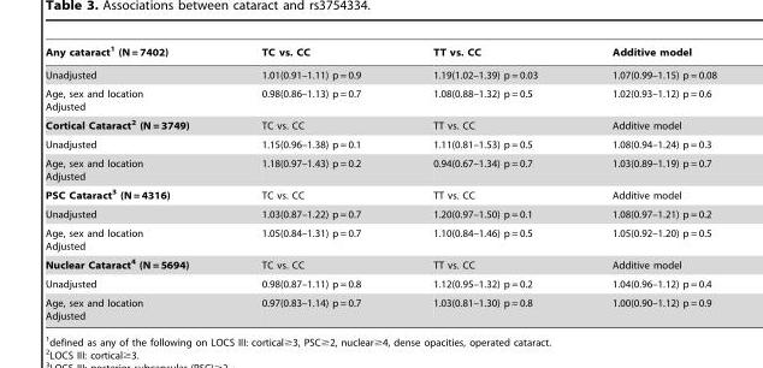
<table><thead><tr><td>Any cataract<sup>1</sup> (N = 7402)</td><td>TC vs. CC</td><td>TT vs. CC</td><td>Additive model</td></tr></thead><tbody><tr><td>Unadjusted</td><td>1.01(0.91–1.11) p = 0.9</td><td>1.19(1.02–1.39) p = 0.03</td><td>1.07(0.99–1.15) p = 0.08</td></tr><tr><td>Age, sex and location Adjusted</td><td>0.98(0.86–1.13) p = 0.7</td><td>1.08(0.88–1.32) p = 0.5</td><td>1.02(0.93–1.12) p = 0.6</td></tr><tr><td>Cortical Cataract2 (N = 3749)</td><td>TC vs. CC</td><td>TT vs. CC</td><td>Additive model</td></tr><tr><td>Unadjusted</td><td>1.15(0.96–1.38) p = 0.1</td><td>1.11(0.81–1.53) p = 0.5</td><td>1.08(0.94–1.24) p = 0.3</td></tr><tr><td>Age, sex and location Adjusted</td><td>1.18(0.97–1.43) p = 0.2</td><td>0.94(0.67–1.34) p = 0.7</td><td>1.03(0.89–1.19) p = 0.7</td></tr><tr><td>PSC Cataract3 (N = 4316)</td><td>TC vs. CC</td><td>TT vs. CC</td><td>Additive model</td></tr><tr><td>Unadjusted</td><td>1.03(0.87–1.22) p = 0.7</td><td>1.20(0.97–1.50) p = 0.1</td><td>1.08(0.97–1.21) p = 0.2</td></tr><tr><td>Age, sex and location Adjusted</td><td>1.05(0.84–1.31) p = 0.7</td><td>1.10(0.84–1.46) p = 0.5</td><td>1.05(0.92–1.20) p = 0.5</td></tr><tr><td>Nuclear Cataract4 (N = 5694)</td><td>TC vs. CC</td><td>TT vs. CC</td><td>Additive model</td></tr><tr><td>Unadjusted</td><td>0.98(0.87–1.11) p = 0.8</td><td>1.12(0.95–1.32) p = 0.2</td><td>1.04(0.96–1.12) p = 0.4</td></tr><tr><td>Age, sex and location Adjusted</td><td>0.97(0.83–1.14) p = 0.7</td><td>1.03(0.81–1.30) p = 0.8</td><td>1.00(0.90–1.12) p = 0.9</td></tr></tbody></table>